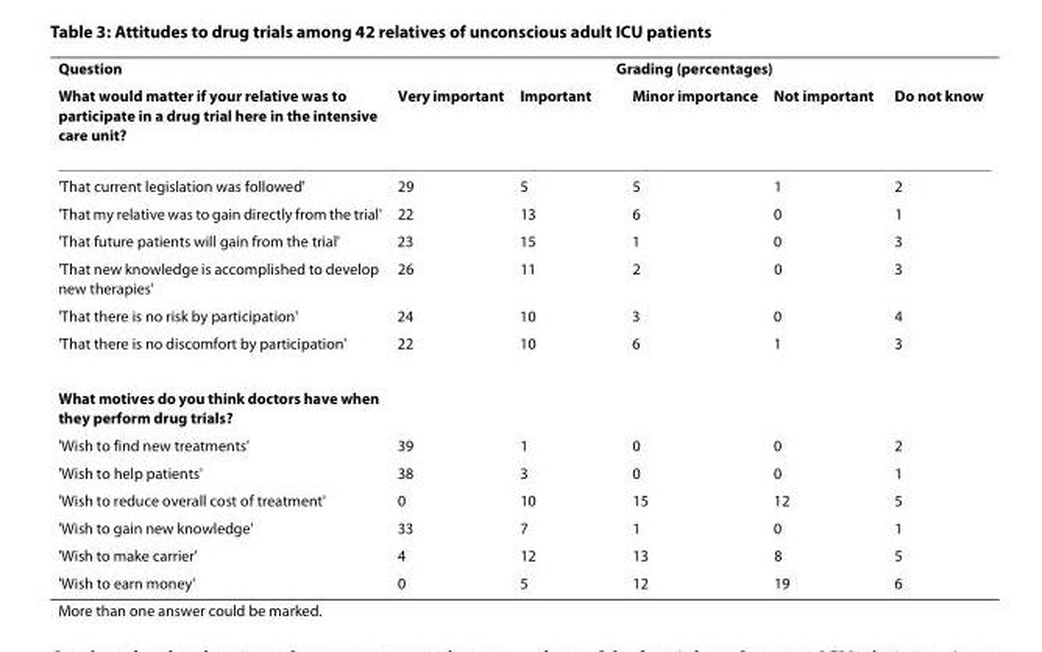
<table><thead><tr><td rowspan="2">Question What would matter if your relative was to participate in a drug trial here in the intensive care unit?</td><td colspan="5">Grading (percentages)</td></tr><tr><td>Very important</td><td>Important</td><td>Minor importance</td><td>Not important</td><td>Do not know</td></tr></thead><tbody><tr><td>&#x27;That current legislation was followed&#x27;</td><td>29</td><td>5</td><td>5</td><td>1</td><td>2</td></tr><tr><td>&#x27;That my relative was to gain directly from the trial&#x27;</td><td>22</td><td>13</td><td>6</td><td>0</td><td>1</td></tr><tr><td>&#x27;That future patients will gain from the trial&#x27;</td><td>23</td><td>15</td><td>1</td><td>0</td><td>3</td></tr><tr><td>&#x27;That new knowledge is accomplished to develop new therapies&#x27;</td><td>26</td><td>11</td><td>2</td><td>0</td><td>3</td></tr><tr><td>&#x27;That there is no risk by participation&#x27;</td><td>24</td><td>10</td><td>3</td><td>0</td><td>4</td></tr><tr><td>&#x27;That there is no discomfort by participation&#x27;</td><td>22</td><td>10</td><td>6</td><td>1</td><td>3</td></tr><tr><td colspan="6">What motives do you think doctors have when they perform drug trials?</td></tr><tr><td>&#x27;Wish to find new treatments&#x27;</td><td>39</td><td>1</td><td>0</td><td>0</td><td>2</td></tr><tr><td>&#x27;Wish to help patients&#x27;</td><td>38</td><td>3</td><td>0</td><td>0</td><td>1</td></tr><tr><td>&#x27;Wish to reduce overall cost of treatment&#x27;</td><td>0</td><td>10</td><td>15</td><td>12</td><td>5</td></tr><tr><td>&#x27;Wish to gain new knowledge&#x27;</td><td>33</td><td>7</td><td>1</td><td>0</td><td>1</td></tr><tr><td>&#x27;Wish to make carrier&#x27;</td><td>4</td><td>12</td><td>13</td><td>8</td><td>5</td></tr><tr><td>&#x27;Wish to earn money&#x27;</td><td>0</td><td>5</td><td>12</td><td>19</td><td>6</td></tr></tbody></table>